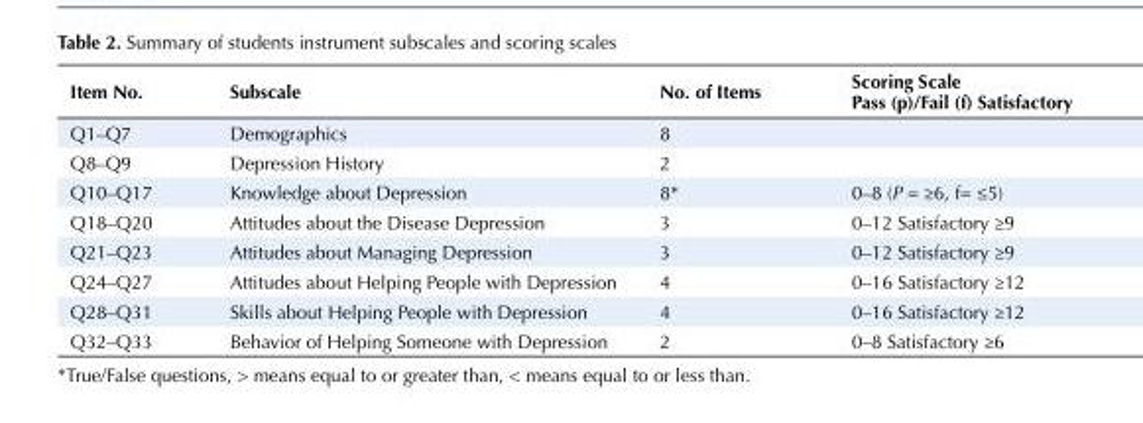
<table><tbody><tr><td>Item No.</td><td>Subscale</td><td>No. of Items</td><td>Scoring Scale Pass (p)/Fail (f) Satisfactory</td></tr><tr><td>Q1–Q7</td><td>Demographics</td><td>8</td><td></td></tr><tr><td>Q8–Q9</td><td>Depression History</td><td>2</td><td></td></tr><tr><td>Q10–Q17</td><td>Knowledge about Depression</td><td>8*</td><td>0–8 (P = ≥6, f= ≤5)</td></tr><tr><td>Q18–Q20</td><td>Attitudes about the Disease Depression</td><td>3</td><td>0–12 Satisfactory ≥9</td></tr><tr><td>Q21–Q23</td><td>Attitudes about Managing Depression</td><td>3</td><td>0–12 Satisfactory ≥9</td></tr><tr><td>Q24–Q27</td><td>Attitudes about Helping People with Depression</td><td>4</td><td>0–16 Satisfactory ≥12</td></tr><tr><td>Q28–Q31</td><td>Skills about Helping People with Depression</td><td>4</td><td>0–16 Satisfactory ≥12</td></tr><tr><td>Q32–Q33</td><td>Behavior of Helping Someone with Depression</td><td>2</td><td>0–8 Satisfactory ≥6</td></tr></tbody></table>